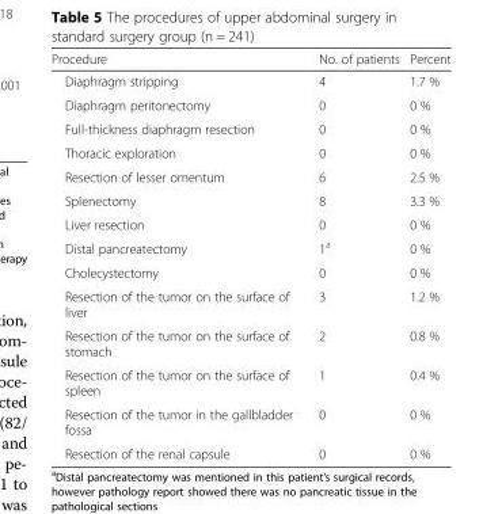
<table><thead><tr><td>Procedure</td><td>No. of patients</td><td>Percent</td></tr></thead><tbody><tr><td>Diaphragm stripping</td><td>4</td><td>1.7 %</td></tr><tr><td>Diaphragm peritonectomy</td><td>0</td><td>0 %</td></tr><tr><td>Full-thickness diaphragm resection</td><td>0</td><td>0 %</td></tr><tr><td>Thoracic exploration</td><td>0</td><td>0 %</td></tr><tr><td>Resection of lesser omentum</td><td>6</td><td>2.5 %</td></tr><tr><td>Splenectomy</td><td>8</td><td>3.3 %</td></tr><tr><td>Liver resection</td><td>0</td><td>0 %</td></tr><tr><td>Distal pancreatectomy</td><td>1<sup>a</sup></td><td>0 %</td></tr><tr><td>Cholecystectomy</td><td>0</td><td>0 %</td></tr><tr><td>Resection of the tumor on the surface of liver</td><td>3</td><td>1.2 %</td></tr><tr><td>Resection of the tumor on the surface of stomach</td><td>2</td><td>0.8 %</td></tr><tr><td>Resection of the tumor on the surface of spleen</td><td>1</td><td>0.4 %</td></tr><tr><td>Resection of the tumor in the gallbladder fossa</td><td>0</td><td>0 %</td></tr><tr><td>Resection of the renal capsule</td><td>0</td><td>0 %</td></tr></tbody></table>